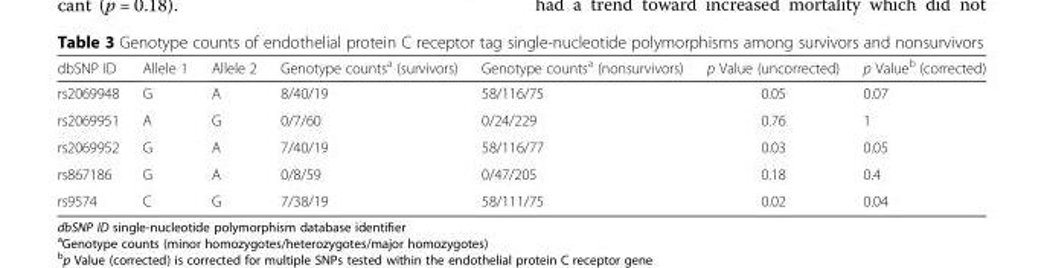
<table><thead><tr><td>dbSNP ID</td><td>Allele 1</td><td>Allele 2</td><td>Genotype counts<sup>a</sup> (survivors)</td><td>Genotype counts<sup>a</sup> (nonsurvivors)</td><td>p Value (uncorrected)</td><td>p Value<sup>b</sup> (corrected)</td></tr></thead><tbody><tr><td>rs2069948</td><td>G</td><td>A</td><td>8/40/19</td><td>58/116/75</td><td>0.05</td><td>0.07</td></tr><tr><td>rs2069951</td><td>A</td><td>G</td><td>0/7/60</td><td>0/24/229</td><td>0.76</td><td>1</td></tr><tr><td>rs2069952</td><td>G</td><td>A</td><td>7/40/19</td><td>58/116/77</td><td>0.03</td><td>0.05</td></tr><tr><td>rs867186</td><td>G</td><td>A</td><td>0/8/59</td><td>0/47/205</td><td>0.18</td><td>0.4</td></tr><tr><td>rs9574</td><td>C</td><td>G</td><td>7/38/19</td><td>58/111/75</td><td>0.02</td><td>0.04</td></tr></tbody></table>